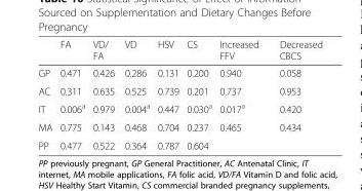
<table><thead><tr><td></td><td>FA</td><td>VD/ FA</td><td>VD</td><td>HSV</td><td>CS</td><td>Increased FFV</td><td>Decreased CBCS</td></tr></thead><tbody><tr><td>GP</td><td>0.471</td><td>0.426</td><td>0.286</td><td>0.131</td><td>0.200</td><td>0.940</td><td>0.058</td></tr><tr><td>AC</td><td>0.311</td><td>0.635</td><td>0.525</td><td>0.739</td><td>0.201</td><td>0.737</td><td>0.953</td></tr><tr><td>IT</td><td>0.006<sup>a</sup></td><td>0.979</td><td>0.004<sup>a</sup></td><td>0.447</td><td>0.030<sup>a</sup></td><td>0.017<sup>a</sup></td><td>0.420</td></tr><tr><td>MA</td><td>0.775</td><td>0.143</td><td>0.468</td><td>0.704</td><td>0.237</td><td>0.465</td><td>0.434</td></tr><tr><td>PP</td><td>0.477</td><td>0.522</td><td>0.364</td><td>0.787</td><td>0.604</td><td></td><td></td></tr></tbody></table>